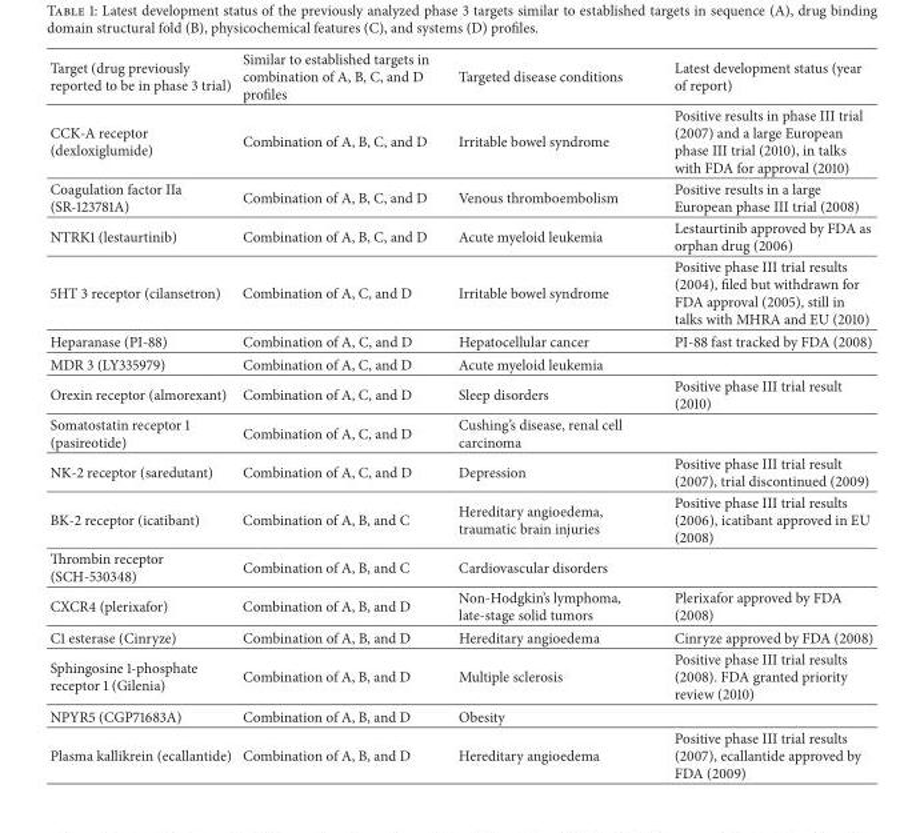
<table><thead><tr><td>Target (drug previously reported to be in phase 3 trial)</td><td>Similar to established targets in combination of A, B, C, and D profiles</td><td>Targeted disease conditions</td><td>Latest development status (year of report)</td></tr></thead><tbody><tr><td>CCK-A receptor (dexloxiglumide)</td><td>Combination of A, B, C, and D</td><td>Irritable bowel syndrome</td><td>Positive results in phase III trial (2007) and a large European phase III trial (2010), in talks with FDA for approval (2010)</td></tr><tr><td>Coagulation factor IIa (SR-123781A)</td><td>Combination of A, B, C, and D</td><td>Venous thromboembolism</td><td>Positive results in a large European phase III trial (2008)</td></tr><tr><td>NTRK1 (lestaurtinib)</td><td>Combination of A, B, C, and D</td><td>Acute myeloid leukemia</td><td>Lestaurtinib approved by FDA as orphan drug (2006)</td></tr><tr><td>5HT 3 receptor (cilansetron)</td><td>Combination of A, C, and D</td><td>Irritable bowel syndrome</td><td>Positive phase III trial results (2004), filed but withdrawn for FDA approval (2005), still in talks with MHRA and EU (2010)</td></tr><tr><td>Heparanase (PI-88)</td><td>Combination of A, C, and D</td><td>Hepatocellular cancer</td><td>PI-88 fast tracked by FDA (2008)</td></tr><tr><td>MDR 3 (LY335979)</td><td>Combination of A, C, and D</td><td>Acute myeloid leukemia</td><td></td></tr><tr><td>Orexin receptor (almorexant)</td><td>Combination of A, C, and D</td><td>Sleep disorders</td><td>Positive phase III trial result (2010)</td></tr><tr><td>Somatostatin receptor 1 (pasireotide)</td><td>Combination of A, C, and D</td><td>Cushing’s disease, renal cell carcinoma</td><td></td></tr><tr><td>NK-2 receptor (saredutant)</td><td>Combination of A, C, and D</td><td>Depression</td><td>Positive phase III trial result (2007), trial discontinued (2009)</td></tr><tr><td>BK-2 receptor (icatibant)</td><td>Combination of A, B, and C</td><td>Hereditary angioedema, traumatic brain injuries</td><td>Positive phase III trial results (2006), icatibant approved in EU (2008)</td></tr><tr><td>Thrombin receptor (SCH-530348)</td><td>Combination of A, B, and C</td><td>Cardiovascular disorders</td><td></td></tr><tr><td>CXCR4 (plerixafor)</td><td>Combination of A, B, and D</td><td>Non-Hodgkin’s lymphoma, late-stage solid tumors</td><td>Plerixafor approved by FDA (2008)</td></tr><tr><td>C1 esterase (Cinryze)</td><td>Combination of A, B, and D</td><td>Hereditary angioedema</td><td>Cinryze approved by FDA (2008)</td></tr><tr><td>Sphingosine 1-phosphate receptor 1 (Gilenia)</td><td>Combination of A, B, and D</td><td>Multiple sclerosis</td><td>Positive phase III trial results (2008). FDA granted priority review (2010)</td></tr><tr><td>NPYR5 (CGP71683A)</td><td>Combination of A, B, and D</td><td>Obesity</td><td></td></tr><tr><td>Plasma kallikrein (ecallantide)</td><td>Combination of A, B, and D</td><td>Hereditary angioedema</td><td>Positive phase III trial results (2007), ecallantide approved by FDA (2009)</td></tr></tbody></table>